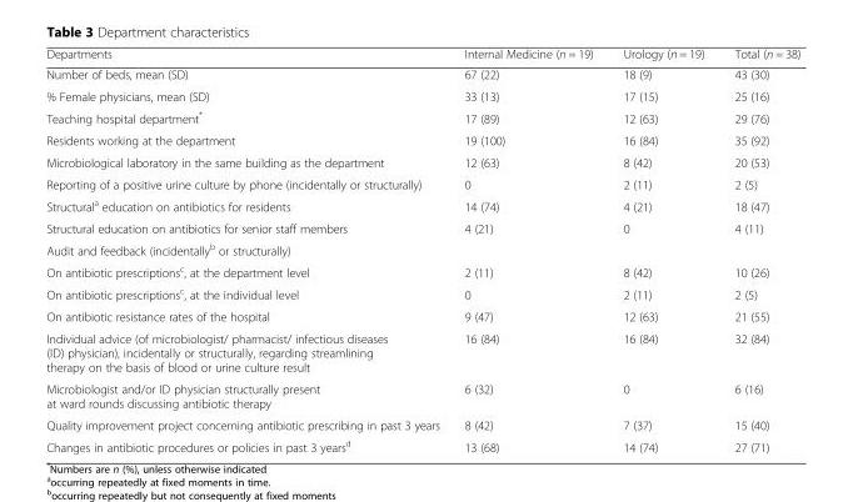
<table><thead><tr><td>Departments</td><td>Internal Medicine (n = 19)</td><td>Urology (n = 19)</td><td>Total (n = 38)</td></tr></thead><tbody><tr><td>Number of beds, mean (SD)</td><td>67 (22)</td><td>18 (9)</td><td>43 (30)</td></tr><tr><td>% Female physicians, mean (SD)</td><td>33 (13)</td><td>17 (15)</td><td>25 (16)</td></tr><tr><td>Teaching hospital department*</td><td>17 (89)</td><td>12 (63)</td><td>29 (76)</td></tr><tr><td>Residents working at the department</td><td>19 (100)</td><td>16 (84)</td><td>35 (92)</td></tr><tr><td>Microbiological laboratory in the same building as the department</td><td>12 (63)</td><td>8 (42)</td><td>20 (53)</td></tr><tr><td>Reporting of a positive urine culture by phone (incidentally or structurally)</td><td>0</td><td>2 (11)</td><td>2 (5)</td></tr><tr><td>Structural<sup>a</sup> education on antibiotics for residents</td><td>14 (74)</td><td>4 (21)</td><td>18 (47)</td></tr><tr><td>Structural education on antibiotics for senior staff members</td><td>4 (21)</td><td>0</td><td>4 (11)</td></tr><tr><td colspan="4">Audit and feedback (incidentally<sup>b</sup> or structurally)</td></tr><tr><td>On antibiotic prescriptions<sup>c</sup>, at the department level</td><td>2 (11)</td><td>8 (42)</td><td>10 (26)</td></tr><tr><td>On antibiotic prescriptions<sup>c</sup>, at the individual level</td><td>0</td><td>2 (11)</td><td>2 (5)</td></tr><tr><td>On antibiotic resistance rates of the hospital</td><td>9 (47)</td><td>12 (63)</td><td>21 (55)</td></tr><tr><td>Individual advice (of microbiologist/ pharmacist/ infectious diseases (ID) physician), incidentally or structurally, regarding streamlining therapy on the basis of blood or urine culture result</td><td>16 (84)</td><td>16 (84)</td><td>32 (84)</td></tr><tr><td>Microbiologist and/or ID physician structurally present at ward rounds discussing antibiotic therapy</td><td>6 (32)</td><td>0</td><td>6 (16)</td></tr><tr><td>Quality improvement project concerning antibiotic prescribing in past 3 years</td><td>8 (42)</td><td>7 (37)</td><td>15 (40)</td></tr><tr><td>Changes in antibiotic procedures or policies in past 3 years<sup>d</sup></td><td>13 (68)</td><td>14 (74)</td><td>27 (71)</td></tr></tbody></table>